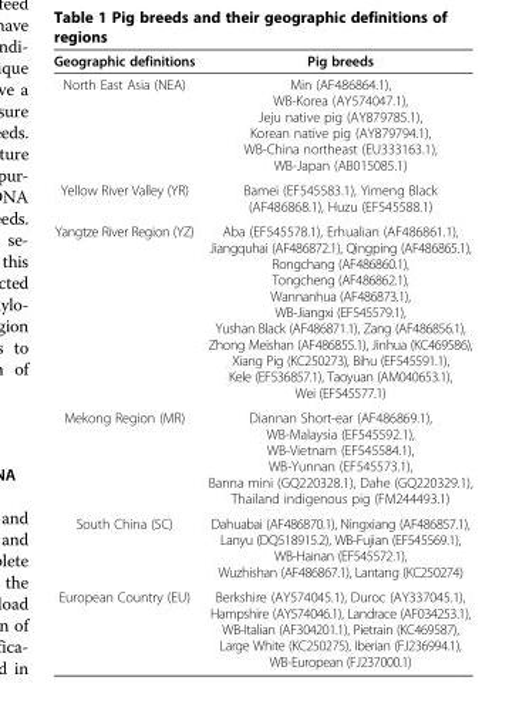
<table><thead><tr><td>Geographic definitions</td><td>Pig breeds</td></tr></thead><tbody><tr><td>North East Asia (NEA)</td><td>Min (AF486864.1), WB-Korea (AY574047.1), Jeju native pig (AY879785.1), Korean native pig (AY879794.1), WB-China northeast (EU333163.1), WB-Japan (AB015085.1)</td></tr><tr><td>Yellow River Valley (YR)</td><td>Bamei (EF545583.1), Yimeng Black (AF486868.1), Huzu (EF545588.1)</td></tr><tr><td>Yangtze River Region (YZ)</td><td>Aba (EF545578.1), Erhualian (AF486861.1), Jiangquhai (AF486872.1), Qingping (AF486865.1), Rongchang (AF486860.1), Tongcheng (AF486862.1), Wannanhua (AF486873.1), WB-Jiangxi (EF545579.1), Yushan Black (AF486871.1), Zang (AF486856.1), Zhong Meishan (AF486855.1), Jinhua (KC469586), Xiang Pig (KC250273), Bihu (EF545591.1), Kele (EF536857.1), Taoyuan (AM040653.1), Wei (EF545577.1)</td></tr><tr><td>Mekong Region (MR)</td><td>Diannan Short-ear (AF486869.1), WB-Malaysia (EF545592.1), WB-Vietnam (EF545584.1), WB-Yunnan (EF545573.1), Banna mini (GQ220328.1), Dahe (GQ220329.1), Thailand indigenous pig (FM244493.1)</td></tr><tr><td>South China (SC)</td><td>Dahuabai (AF486870.1), Ningxiang (AF486857.1), Lanyu (DQ518915.2), WB-Fujian (EF545569.1), WB-Hainan (EF545572.1), Wuzhishan (AF486867.1), Lantang (KC250274)</td></tr><tr><td>European Country (EU)</td><td>Berkshire (AY574045.1), Duroc (AY337045.1), Hampshire (AY574046.1), Landrace (AF034253.1), WB-Italian (AF304201.1), Pietrain (KC469587), Large White (KC250275), Iberian (FJ236994.1), WB-European (FJ237000.1)</td></tr></tbody></table>